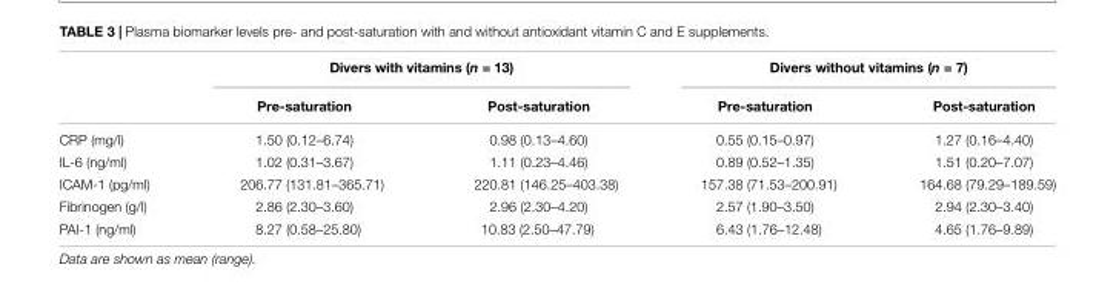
<table><thead><tr><td rowspan="2"></td><td colspan="2">Divers with vitamins (n = 13)</td><td colspan="2">Divers without vitamins (n = 7)</td></tr><tr><td>Pre-saturation</td><td>Post-saturation</td><td>Pre-saturation</td><td>Post-saturation</td></tr></thead><tbody><tr><td>CRP (mg/l)</td><td>1.50 (0.12–6.74)</td><td>0.98 (0.13–4.60)</td><td>0.55 (0.15–0.97)</td><td>1.27 (0.16–4.40)</td></tr><tr><td>IL-6 (ng/ml)</td><td>1.02 (0.31–3.67)</td><td>1.11 (0.23–4.46)</td><td>0.89 (0.52–1.35)</td><td>1.51 (0.20–7.07)</td></tr><tr><td>ICAM-1 (pg/ml)</td><td>206.77 (131.81–365.71)</td><td>220.81 (146.25–403.38)</td><td>157.38 (71.53–200.91)</td><td>164.68 (79.29–189.59)</td></tr><tr><td>Fibrinogen (g/l)</td><td>2.86 (2.30–3.60)</td><td>2.96 (2.30–4.20)</td><td>2.57 (1.90–3.50)</td><td>2.94 (2.30–3.40)</td></tr><tr><td>PAI-1 (ng/ml)</td><td>8.27 (0.58–25.80)</td><td>10.83 (2.50–47.79)</td><td>6.43 (1.76–12.48)</td><td>4.65 (1.76–9.89)</td></tr></tbody></table>